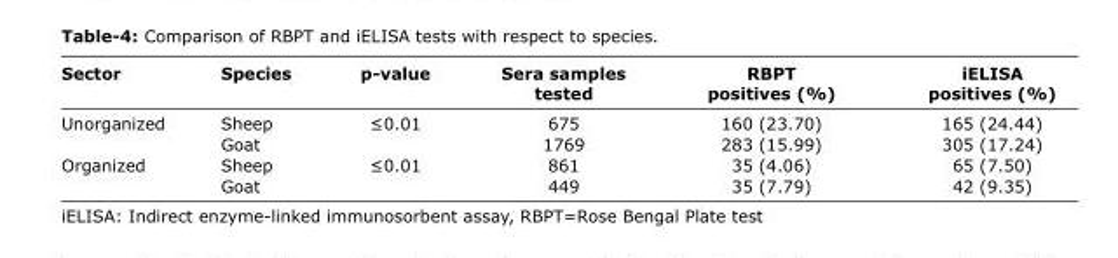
<table><thead><tr><td>Sector</td><td>Species</td><td>p-value</td><td>Sera samples tested</td><td>RBPT positives (%)</td><td>iELISA positives (%)</td></tr></thead><tbody><tr><td rowspan="2">Unorganized</td><td>Sheep</td><td rowspan="2">≤0.01</td><td>675</td><td>160 (23.70)</td><td>165 (24.44)</td></tr><tr><td>Goat</td><td>1769</td><td>283 (15.99)</td><td>305 (17.24)</td></tr><tr><td rowspan="2">Organized</td><td>Sheep</td><td rowspan="2">≤0.01</td><td>861</td><td>35 (4.06)</td><td>65 (7.50)</td></tr><tr><td>Goat</td><td>449</td><td>35 (7.79)</td><td>42 (9.35)</td></tr></tbody></table>